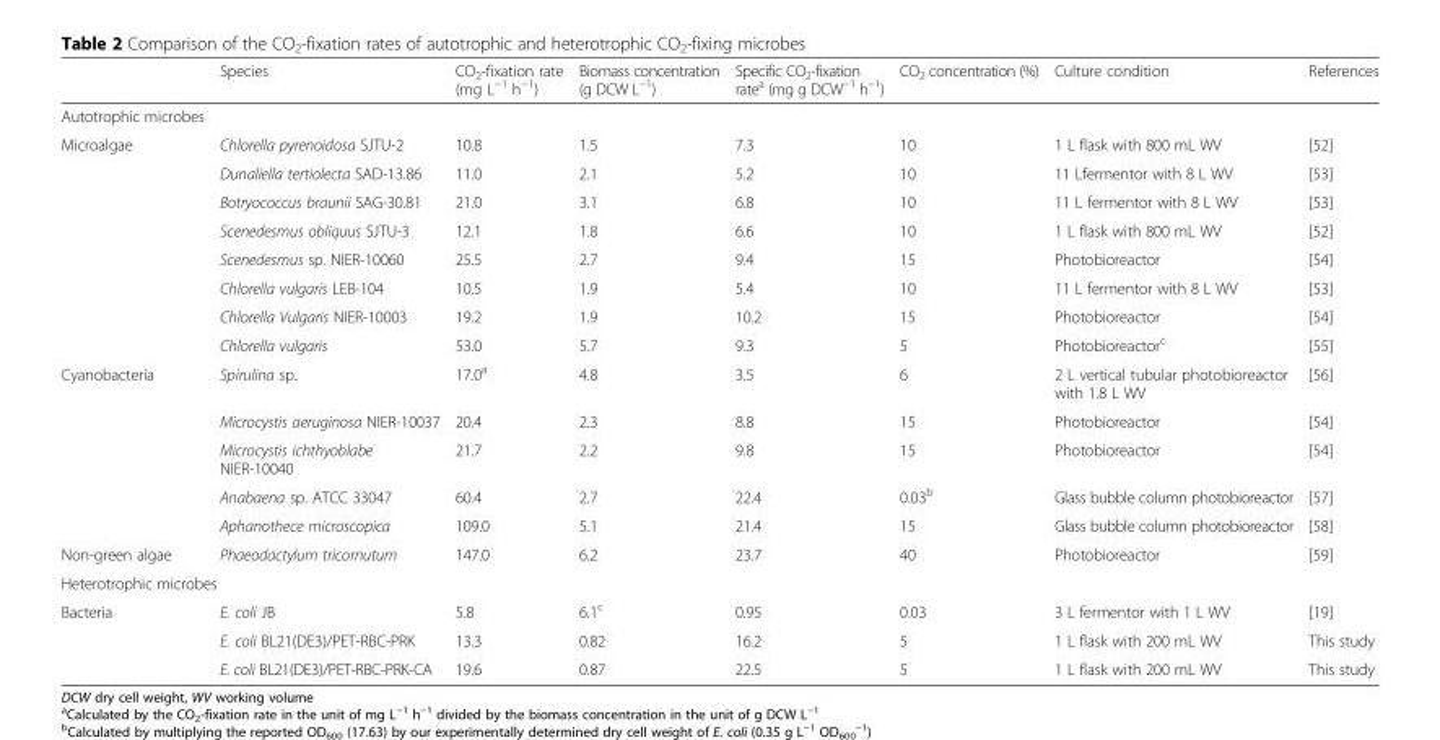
<table><thead><tr><td></td><td>Species</td><td>CO<sub>2</sub>-fixation rate (mg L<sup>−1</sup> h<sup>−1</sup>)</td><td>Biomass concentration (g DCW L<sup>−1</sup>)</td><td>Specific CO<sub>2</sub>-fixation rate<sup>a</sup> (mg g DCW<sup>−1</sup> h<sup>−1</sup>)</td><td>CO<sub>2</sub> concentration (%)</td><td>Culture condition</td><td>References</td></tr></thead><tbody><tr><td colspan="8">Autotrophic microbes</td></tr><tr><td rowspan="8">Microalgae</td><td>Chlorella pyrenoidosa SJTU-2</td><td>10.8</td><td>1.5</td><td>7.3</td><td>10</td><td>1 L flask with 800 mL WV</td><td>[52]</td></tr><tr><td>Dunaliella tertiolecta SAD-13.86</td><td>11.0</td><td>2.1</td><td>5.2</td><td>10</td><td>11 Lfermentor with 8 L WV</td><td>[53]</td></tr><tr><td>Botryococcus braunii SAG-30.81</td><td>21.0</td><td>3.1</td><td>6.8</td><td>10</td><td>11 L fermentor with 8 L WV</td><td>[53]</td></tr><tr><td>Scenedesmus obliquus SJTU-3</td><td>12.1</td><td>1.8</td><td>6.6</td><td>10</td><td>1 L flask with 800 mL WV</td><td>[52]</td></tr><tr><td>Scenedesmus sp. NIER-10060</td><td>25.5</td><td>2.7</td><td>9.4</td><td>15</td><td>Photobioreactor</td><td>[54]</td></tr><tr><td>Chlorella vulgaris LEB-104</td><td>10.5</td><td>1.9</td><td>5.4</td><td>10</td><td>11 L fermentor with 8 L WV</td><td>[53]</td></tr><tr><td>Chlorella Vulgaris NIER-10003</td><td>19.2</td><td>1.9</td><td>10.2</td><td>15</td><td>Photobioreactor</td><td>[54]</td></tr><tr><td>Chlorella vulgaris</td><td>53.0</td><td>5.7</td><td>9.3</td><td>5</td><td>Photobioreactor<sup>c</sup></td><td>[55]</td></tr><tr><td rowspan="5">Cyanobacteria</td><td>Spirulina sp.</td><td>17.0<sup>a</sup></td><td>4.8</td><td>3.5</td><td>6</td><td>2 L vertical tubular photobioreactor with 1.8 L WV</td><td>[56]</td></tr><tr><td>Microcystis aeruginosa NIER-10037</td><td>20.4</td><td>2.3</td><td>8.8</td><td>15</td><td>Photobioreactor</td><td>[54]</td></tr><tr><td>Microcystis ichthyoblabe NIER-10040</td><td>21.7</td><td>2.2</td><td>9.8</td><td>15</td><td>Photobioreactor</td><td>[54]</td></tr><tr><td>Anabaena sp. ATCC 33047</td><td>60.4</td><td>2.7</td><td>22.4</td><td>0.03<sup>b</sup></td><td>Glass bubble column photobioreactor</td><td>[57]</td></tr><tr><td>Aphanothece microscopica</td><td>109.0</td><td>5.1</td><td>21.4</td><td>15</td><td>Glass bubble column photobioreactor</td><td>[58]</td></tr><tr><td>Non-green algae</td><td>Phaeodactylum tricornutum</td><td>147.0</td><td>6.2</td><td>23.7</td><td>40</td><td>Photobioreactor</td><td>[59]</td></tr><tr><td colspan="8">Heterotrophic microbes</td></tr><tr><td rowspan="3">Bacteria</td><td>E. coli JB</td><td>5.8</td><td>6.1<sup>c</sup></td><td>0.95</td><td>0.03</td><td>3 L fermentor with 1 L WV</td><td>[19]</td></tr><tr><td>E. coli BL21(DE3)/PET-RBC-PRK</td><td>13.3</td><td>0.82</td><td>16.2</td><td>5</td><td>1 L flask with 200 mL WV</td><td>This study</td></tr><tr><td>E. coli BL21(DE3)/PET-RBC-PRK-CA</td><td>19.6</td><td>0.87</td><td>22.5</td><td>5</td><td>1 L flask with 200 mL WV</td><td>This study</td></tr></tbody></table>